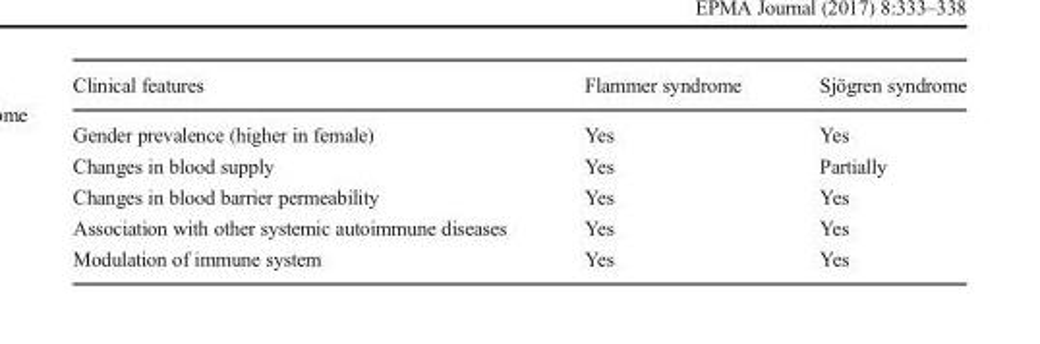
<table><thead><tr><td>Clinical features</td><td>Flammer syndrome</td><td>Sjögren syndrome</td></tr></thead><tbody><tr><td>Gender prevalence (higher in female)</td><td>Yes</td><td>Yes</td></tr><tr><td>Changes in blood supply</td><td>Yes</td><td>Partially</td></tr><tr><td>Changes in blood barrier permeability</td><td>Yes</td><td>Yes</td></tr><tr><td>Association with other systemic autoimmune diseases</td><td>Yes</td><td>Yes</td></tr><tr><td>Modulation of immune system</td><td>Yes</td><td>Yes</td></tr></tbody></table>